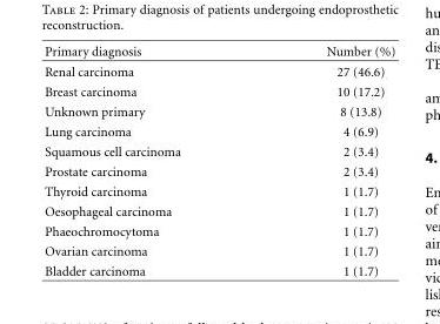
<table><tbody><tr><td>Primary diagnosis</td><td>Number (%)</td></tr><tr><td>Renal carcinoma</td><td>27 (46.6)</td></tr><tr><td>Breast carcinoma</td><td>10 (17.2)</td></tr><tr><td>Unknown primary</td><td>8 (13.8)</td></tr><tr><td>Lung carcinoma</td><td>4 (6.9)</td></tr><tr><td>Squamous cell carcinoma</td><td>2 (3.4)</td></tr><tr><td>Prostate carcinoma</td><td>2 (3.4)</td></tr><tr><td>Thyroid carcinoma</td><td>1 (1.7)</td></tr><tr><td>Oesophageal carcinoma</td><td>1 (1.7)</td></tr><tr><td>Phaeochromocytoma</td><td>1 (1.7)</td></tr><tr><td>Ovarian carcinoma</td><td>1 (1.7)</td></tr><tr><td>Bladder carcinoma</td><td>1 (1.7)</td></tr></tbody></table>